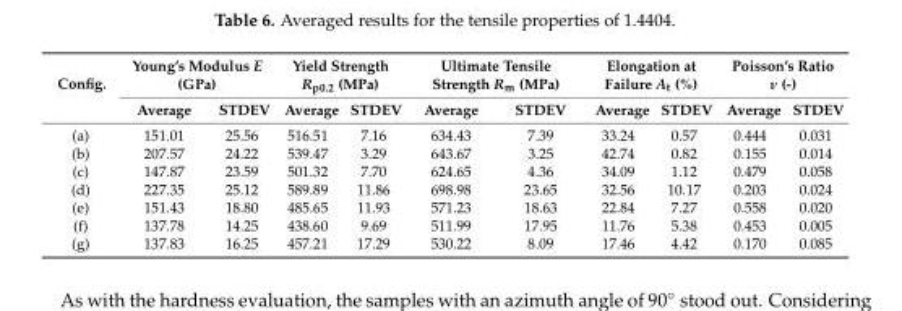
<table><thead><tr><td rowspan="2">Config.</td><td colspan="2">Young’s Modulus E (GPa)</td><td colspan="2">Yield Strength R<sub>p0.2</sub> (MPa)</td><td colspan="2">Ultimate Tensile Strength R<sub>m</sub> (MPa)</td><td colspan="2">Elongation at Failure A<sub>t</sub> (%)</td><td colspan="2">Poisson’s Ratio ν (-)</td></tr><tr><td>Average</td><td>STDEV</td><td>Average</td><td>STDEV</td><td>Average</td><td>STDEV</td><td>Average</td><td>STDEV</td><td>Average</td><td>STDEV</td></tr></thead><tbody><tr><td>(a)</td><td>151.01</td><td>25.56</td><td>516.51</td><td>7.16</td><td>634.43</td><td>7.39</td><td>33.24</td><td>0.57</td><td>0.444</td><td>0.031</td></tr><tr><td>(b)</td><td>207.57</td><td>24.22</td><td>539.47</td><td>3.29</td><td>643.67</td><td>3.25</td><td>42.74</td><td>0.82</td><td>0.155</td><td>0.014</td></tr><tr><td>(c)</td><td>147.87</td><td>23.59</td><td>501.32</td><td>7.70</td><td>624.65</td><td>4.36</td><td>34.09</td><td>1.12</td><td>0.479</td><td>0.058</td></tr><tr><td>(d)</td><td>227.35</td><td>25.12</td><td>589.89</td><td>11.86</td><td>698.98</td><td>23.65</td><td>32.56</td><td>10.17</td><td>0.203</td><td>0.024</td></tr><tr><td>(e)</td><td>151.43</td><td>18.80</td><td>485.65</td><td>11.93</td><td>571.23</td><td>18.63</td><td>22.84</td><td>7.27</td><td>0.558</td><td>0.020</td></tr><tr><td>(f)</td><td>137.78</td><td>14.25</td><td>438.60</td><td>9.69</td><td>511.99</td><td>17.95</td><td>11.76</td><td>5.38</td><td>0.453</td><td>0.005</td></tr><tr><td>(g)</td><td>137.83</td><td>16.25</td><td>457.21</td><td>17.29</td><td>530.22</td><td>8.09</td><td>17.46</td><td>4.42</td><td>0.170</td><td>0.085</td></tr></tbody></table>